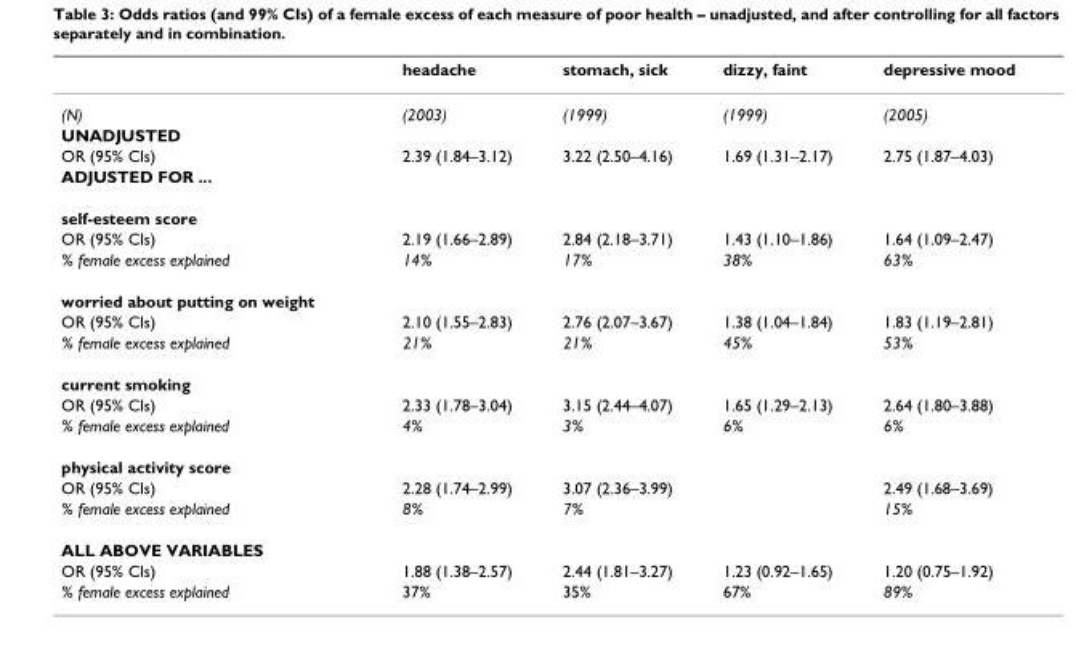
<table><thead><tr><td></td><td>headache</td><td>stomach, sick</td><td>dizzy, faint</td><td>depressive mood</td></tr></thead><tbody><tr><td>(N)</td><td>(2003)</td><td>(1999)</td><td>(1999)</td><td>(2005)</td></tr><tr><td colspan="5">UNADJUSTED</td></tr><tr><td>OR (95% CIs)</td><td>2.39 (1.84–3.12)</td><td>3.22 (2.50–4.16)</td><td>1.69 (1.31–2.17)</td><td>2.75 (1.87–4.03)</td></tr><tr><td colspan="5">ADJUSTED FOR ...</td></tr><tr><td colspan="5">self-esteem score</td></tr><tr><td>OR (95% CIs)</td><td>2.19 (1.66–2.89)</td><td>2.84 (2.18–3.71)</td><td>1.43 (1.10–1.86)</td><td>1.64 (1.09–2.47)</td></tr><tr><td>% female excess explained</td><td>14%</td><td>17%</td><td>38%</td><td>63%</td></tr><tr><td colspan="5">worried about putting on weight</td></tr><tr><td>OR (95% CIs)</td><td>2.10 (1.55–2.83)</td><td>2.76 (2.07–3.67)</td><td>1.38 (1.04–1.84)</td><td>1.83 (1.19–2.81)</td></tr><tr><td>% female excess explained</td><td>21%</td><td>21%</td><td>45%</td><td>53%</td></tr><tr><td colspan="5">current smoking</td></tr><tr><td>OR (95% CIs)</td><td>2.33 (1.78–3.04)</td><td>3.15 (2.44–4.07)</td><td>1.65 (1.29–2.13)</td><td>2.64 (1.80–3.88)</td></tr><tr><td>% female excess explained</td><td>4%</td><td>3%</td><td>6%</td><td>6%</td></tr><tr><td colspan="5">physical activity score</td></tr><tr><td>OR (95% CIs)</td><td>2.28 (1.74–2.99)</td><td>3.07 (2.36–3.99)</td><td></td><td>2.49 (1.68–3.69)</td></tr><tr><td>% female excess explained</td><td>8%</td><td>7%</td><td></td><td>15%</td></tr><tr><td colspan="5">ALL ABOVE VARIABLES</td></tr><tr><td>OR (95% CIs)</td><td>1.88 (1.38–2.57)</td><td>2.44 (1.81–3.27)</td><td>1.23 (0.92–1.65)</td><td>1.20 (0.75–1.92)</td></tr><tr><td>% female excess explained</td><td>37%</td><td>35%</td><td>67%</td><td>89%</td></tr></tbody></table>